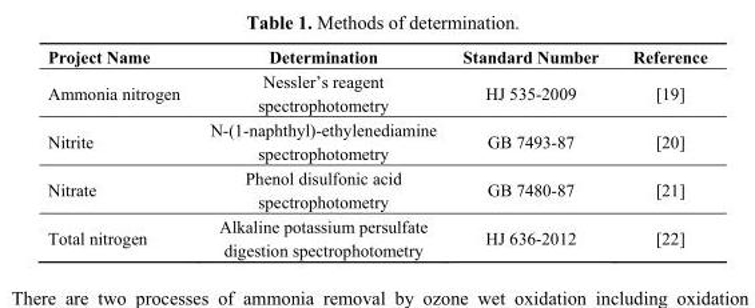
<table><thead><tr><td>Project Name</td><td>Determination</td><td>Standard Number</td><td>Reference</td></tr></thead><tbody><tr><td>Ammonia nitrogen</td><td>Nessler’s reagent spectrophotometry</td><td>HJ 535-2009</td><td>[19]</td></tr><tr><td>Nitrite</td><td>N-(1-naphthyl)-ethylenediamine spectrophotometry</td><td>GB 7493-87</td><td>[20]</td></tr><tr><td>Nitrate</td><td>Phenol disulfonic acid spectrophotometry</td><td>GB 7480-87</td><td>[21]</td></tr><tr><td>Total nitrogen</td><td>Alkaline potassium persulfate digestion spectrophotometry</td><td>HJ 636-2012</td><td>[22]</td></tr></tbody></table>